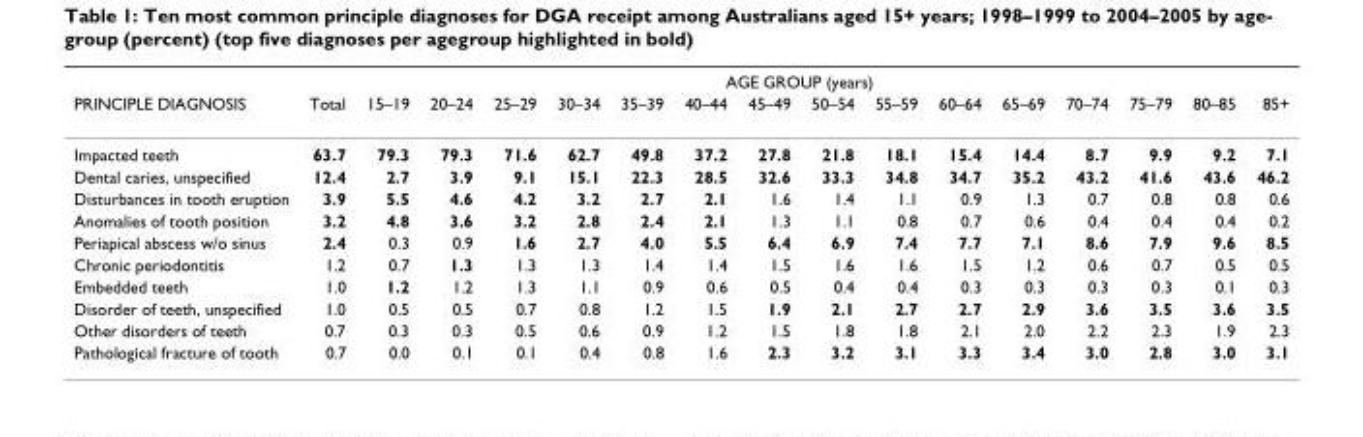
<table><thead><tr><td rowspan="2">PRINCIPLE DIAGNOSIS</td><td colspan="16">AGE GROUP (years)</td></tr><tr><td>Total</td><td>15–19</td><td>20–24</td><td>25–29</td><td>30–34</td><td>35–39</td><td>40–44</td><td>45–49</td><td>50–54</td><td>55–59</td><td>60–64</td><td>65–69</td><td>70–74</td><td>75–79</td><td>80–85</td><td>85+</td></tr></thead><tbody><tr><td>Impacted teeth</td><td>63.7</td><td>79.3</td><td>79.3</td><td>71.6</td><td>62.7</td><td>49.8</td><td>37.2</td><td>27.8</td><td>21.8</td><td>18.1</td><td>15.4</td><td>14.4</td><td>8.7</td><td>9.9</td><td>9.2</td><td>7.1</td></tr><tr><td>Dental caries, unspecified</td><td>12.4</td><td>2.7</td><td>3.9</td><td>9.1</td><td>15.1</td><td>22.3</td><td>28.5</td><td>32.6</td><td>33.3</td><td>34.8</td><td>34.7</td><td>35.2</td><td>43.2</td><td>41.6</td><td>43.6</td><td>46.2</td></tr><tr><td>Disturbances in tooth eruption</td><td>3.9</td><td>5.5</td><td>4.6</td><td>4.2</td><td>3.2</td><td>2.7</td><td>2.1</td><td>1.6</td><td>1.4</td><td>1.1</td><td>0.9</td><td>1.3</td><td>0.7</td><td>0.8</td><td>0.8</td><td>0.6</td></tr><tr><td>Anomalies of tooth position</td><td>3.2</td><td>4.8</td><td>3.6</td><td>3.2</td><td>2.8</td><td>2.4</td><td>2.1</td><td>1.3</td><td>1.1</td><td>0.8</td><td>0.7</td><td>0.6</td><td>0.4</td><td>0.4</td><td>0.4</td><td>0.2</td></tr><tr><td>Periapical abscess w/o sinus</td><td>2.4</td><td>0.3</td><td>0.9</td><td>1.6</td><td>2.7</td><td>4.0</td><td>5.5</td><td>6.4</td><td>6.9</td><td>7.4</td><td>7.7</td><td>7.1</td><td>8.6</td><td>7.9</td><td>9.6</td><td>8.5</td></tr><tr><td>Chronic periodontitis</td><td>1.2</td><td>0.7</td><td>1.3</td><td>1.3</td><td>1.3</td><td>1.4</td><td>1.4</td><td>1.5</td><td>1.6</td><td>1.6</td><td>1.5</td><td>1.2</td><td>0.6</td><td>0.7</td><td>0.5</td><td>0.5</td></tr><tr><td>Embedded teeth</td><td>1.0</td><td>1.2</td><td>1.2</td><td>1.3</td><td>1.1</td><td>0.9</td><td>0.6</td><td>0.5</td><td>0.4</td><td>0.4</td><td>0.3</td><td>0.3</td><td>0.3</td><td>0.3</td><td>0.1</td><td>0.3</td></tr><tr><td>Disorder of teeth, unspecified</td><td>1.0</td><td>0.5</td><td>0.5</td><td>0.7</td><td>0.8</td><td>1.2</td><td>1.5</td><td>1.9</td><td>2.1</td><td>2.7</td><td>2.7</td><td>2.9</td><td>3.6</td><td>3.5</td><td>3.6</td><td>3.5</td></tr><tr><td>Other disorders of teeth</td><td>0.7</td><td>0.3</td><td>0.3</td><td>0.5</td><td>0.6</td><td>0.9</td><td>1.2</td><td>1.5</td><td>1.8</td><td>1.8</td><td>2.1</td><td>2.0</td><td>2.2</td><td>2.3</td><td>1.9</td><td>2.3</td></tr><tr><td>Pathological fracture of tooth</td><td>0.7</td><td>0.0</td><td>0.1</td><td>0.1</td><td>0.4</td><td>0.8</td><td>1.6</td><td>2.3</td><td>3.2</td><td>3.1</td><td>3.3</td><td>3.4</td><td>3.0</td><td>2.8</td><td>3.0</td><td>3.1</td></tr></tbody></table>